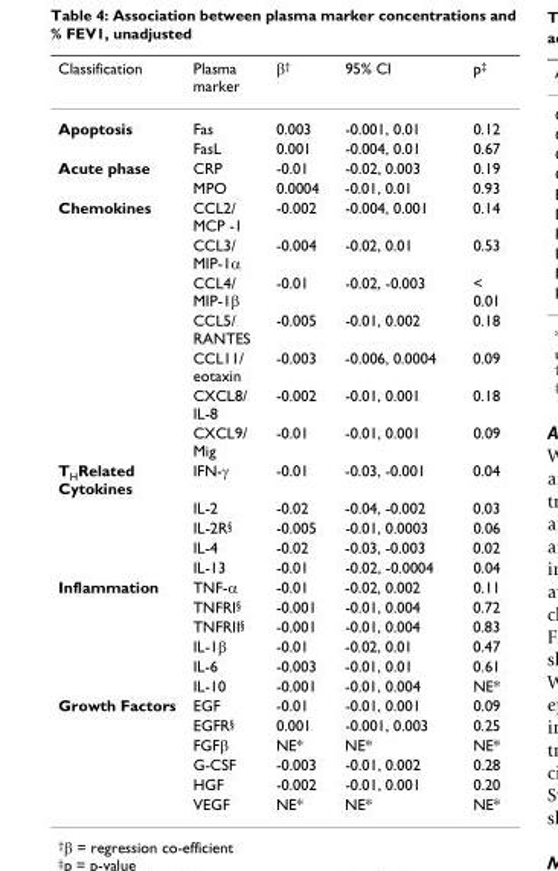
<table><thead><tr><td>Classification</td><td>Plasma marker</td><td>β<sup>†</sup></td><td>95% CI</td><td>p<sup>‡</sup></td></tr></thead><tbody><tr><td rowspan="2">Apoptosis</td><td>Fas</td><td>0.003</td><td>-0.001, 0.01</td><td>0.12</td></tr><tr><td>FasL</td><td>0.001</td><td>-0.004, 0.01</td><td>0.67</td></tr><tr><td rowspan="2">Acute phase</td><td>CRP</td><td>-0.01</td><td>-0.02, 0.003</td><td>0.19</td></tr><tr><td>MPO</td><td>0.0004</td><td>-0.01, 0.01</td><td>0.93</td></tr><tr><td rowspan="7">Chemokines</td><td>CCL2/ MCP -1</td><td>-0.002</td><td>-0.004, 0.001</td><td>0.14</td></tr><tr><td>CCL3/ MIP-1α</td><td>-0.004</td><td>-0.02, 0.01</td><td>0.53</td></tr><tr><td>CCL4/ MIP-1β</td><td>-0.01</td><td>-0.02, -0.003</td><td>&lt; 0.01</td></tr><tr><td>CCL5/ RANTES</td><td>-0.005</td><td>-0.01, 0.002</td><td>0.18</td></tr><tr><td>CCL11/ eotaxin</td><td>-0.003</td><td>-0.006, 0.0004</td><td>0.09</td></tr><tr><td>CXCL8/ IL-8</td><td>-0.002</td><td>-0.01, 0.001</td><td>0.18</td></tr><tr><td>CXCL9/ Mig</td><td>-0.01</td><td>-0.01, 0.001</td><td>0.09</td></tr><tr><td rowspan="5">T<sub>H</sub>Related Cytokines</td><td>IFN-γ</td><td>-0.01</td><td>-0.03, -0.001</td><td>0.04</td></tr><tr><td>IL-2</td><td>-0.02</td><td>-0.04, -0.002</td><td>0.03</td></tr><tr><td>IL-2R<sup>§</sup></td><td>-0.005</td><td>-0.01, 0.0003</td><td>0.06</td></tr><tr><td>IL-4</td><td>-0.02</td><td>-0.03, -0.003</td><td>0.02</td></tr><tr><td>IL-13</td><td>-0.01</td><td>-0.02, -0.0004</td><td>0.04</td></tr><tr><td rowspan="6">Inflammation</td><td>TNF-α</td><td>-0.01</td><td>-0.02, 0.002</td><td>0.11</td></tr><tr><td>TNFRI<sup>§</sup></td><td>-0.001</td><td>-0.01, 0.004</td><td>0.72</td></tr><tr><td>TNFRII<sup>§</sup></td><td>-0.001</td><td>-0.01, 0.004</td><td>0.83</td></tr><tr><td>IL-1β</td><td>-0.01</td><td>-0.02, 0.01</td><td>0.47</td></tr><tr><td>IL-6</td><td>-0.003</td><td>-0.01, 0.01</td><td>0.61</td></tr><tr><td>IL-10</td><td>-0.001</td><td>-0.01, 0.004</td><td>NE*</td></tr><tr><td rowspan="6">Growth Factors</td><td>EGF</td><td>-0.01</td><td>-0.01, 0.001</td><td>0.09</td></tr><tr><td>EGFR<sup>§</sup></td><td>0.001</td><td>-0.001, 0.003</td><td>0.25</td></tr><tr><td>FGFβ</td><td>NE*</td><td>NE*</td><td>NE*</td></tr><tr><td>G-CSF</td><td>-0.003</td><td>-0.01, 0.002</td><td>0.28</td></tr><tr><td>HGF</td><td>-0.002</td><td>-0.01, 0.001</td><td>0.20</td></tr><tr><td>VEGF</td><td>NE*</td><td>NE*</td><td>NE*</td></tr></tbody></table>